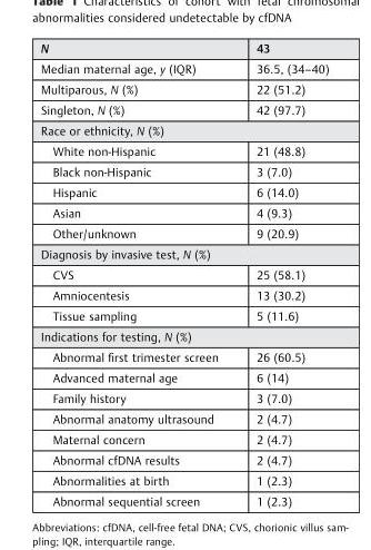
<table><thead><tr><td>N</td><td>43</td></tr></thead><tbody><tr><td>Median maternal age, y (IQR)</td><td>36.5, (34–40)</td></tr><tr><td>Multiparous, N (%)</td><td>22 (51.2)</td></tr><tr><td>Singleton, N (%)</td><td>42 (97.7)</td></tr><tr><td colspan="2">Race or ethnicity, N (%)</td></tr><tr><td>White non-Hispanic</td><td>21 (48.8)</td></tr><tr><td>Black non-Hispanic</td><td>3 (7.0)</td></tr><tr><td>Hispanic</td><td>6 (14.0)</td></tr><tr><td>Asian</td><td>4 (9.3)</td></tr><tr><td>Other/unknown</td><td>9 (20.9)</td></tr><tr><td colspan="2">Diagnosis by invasive test, N (%)</td></tr><tr><td>CVS</td><td>25 (58.1)</td></tr><tr><td>Amniocentesis</td><td>13 (30.2)</td></tr><tr><td>Tissue sampling</td><td>5 (11.6)</td></tr><tr><td colspan="2">Indications for testing, N (%)</td></tr><tr><td>Abnormal first trimester screen</td><td>26 (60.5)</td></tr><tr><td>Advanced maternal age</td><td>6 (14)</td></tr><tr><td>Family history</td><td>3 (7.0)</td></tr><tr><td>Abnormal anatomy ultrasound</td><td>2 (4.7)</td></tr><tr><td>Maternal concern</td><td>2 (4.7)</td></tr><tr><td>Abnormal cfDNA results</td><td>2 (4.7)</td></tr><tr><td>Abnormalities at birth</td><td>1 (2.3)</td></tr><tr><td>Abnormal sequential screen</td><td>1 (2.3)</td></tr></tbody></table>